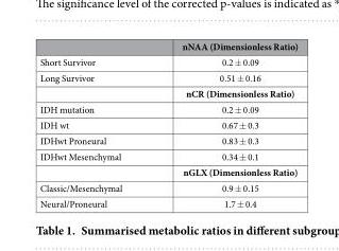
<table><thead><tr><td></td><td>nNAA (Dimensionless Ratio)</td></tr></thead><tbody><tr><td>Short Survivor</td><td>0.2 ± 0.09</td></tr><tr><td rowspan="2">Long Survivor</td><td>0.51 ± 0.16</td></tr><tr><td>nCR (Dimensionless Ratio)</td></tr><tr><td>IDH mutation</td><td>0.2 ± 0.09</td></tr><tr><td>IDH wt</td><td>0.67 ± 0.3</td></tr><tr><td>IDHwt Proneural</td><td>0.83 ± 0.3</td></tr><tr><td rowspan="2">IDHwt Mesenchymal</td><td>0.34 ± 0.1</td></tr><tr><td>nGLX (Dimensionless Ratio)</td></tr><tr><td>Classic/Mesenchymal</td><td>0.9 ± 0.15</td></tr><tr><td>Neural/Proneural</td><td>1.7 ± 0.4</td></tr></tbody></table>